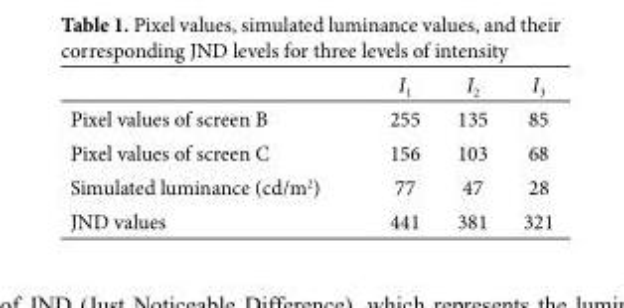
<table><thead><tr><td></td><td>I<sub>1</sub></td><td>I<sub>2</sub></td><td>I<sub>3</sub></td></tr></thead><tbody><tr><td>Pixel values of screen B</td><td>255</td><td>135</td><td>85</td></tr><tr><td>Pixel values of screen C</td><td>156</td><td>103</td><td>68</td></tr><tr><td>Simulated luminance (cd/m<sup>2</sup>)</td><td>77</td><td>47</td><td>28</td></tr><tr><td>JND values</td><td>441</td><td>381</td><td>321</td></tr></tbody></table>